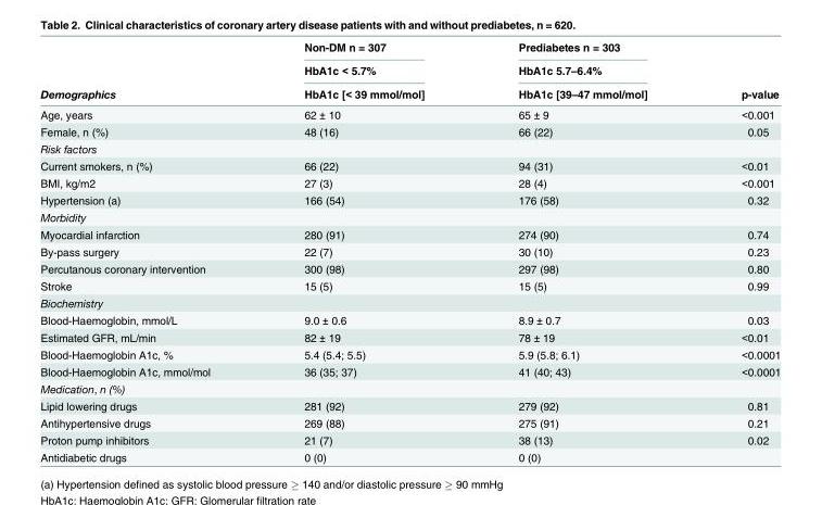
<table><thead><tr><td rowspan="3">Demographics</td><td rowspan="3">Non-DM n = 307 HbA1c &lt; 5.7% HbA1c [&lt; 39 mmol/mol]</td><td rowspan="3">Prediabetes n = 303 HbA1c 5.7–6.4% HbA1c [39–47 mmol/mol]</td><td rowspan="3">p-value</td></tr><tr></tr><tr></tr></thead><tbody><tr><td>Age, years</td><td>62 ± 10</td><td>65 ± 9</td><td>&lt;0.001</td></tr><tr><td>Female, n (%)</td><td>48 (16)</td><td>66 (22)</td><td>0.05</td></tr><tr><td colspan="4">Risk factors</td></tr><tr><td>Current smokers, n (%)</td><td>66 (22)</td><td>94 (31)</td><td>&lt;0.01</td></tr><tr><td>BMI, kg/m2</td><td>27 (3)</td><td>28 (4)</td><td>&lt;0.001</td></tr><tr><td>Hypertension (a)</td><td>166 (54)</td><td>176 (58)</td><td>0.32</td></tr><tr><td colspan="4">Morbidity</td></tr><tr><td>Myocardial infarction</td><td>280 (91)</td><td>274 (90)</td><td>0.74</td></tr><tr><td>By-pass surgery</td><td>22 (7)</td><td>30 (10)</td><td>0.23</td></tr><tr><td>Percutanous coronary intervention</td><td>300 (98)</td><td>297 (98)</td><td>0.80</td></tr><tr><td>Stroke</td><td>15 (5)</td><td>15 (5)</td><td>0.99</td></tr><tr><td colspan="4">Biochemistry</td></tr><tr><td>Blood-Haemoglobin, mmol/L</td><td>9.0 ± 0.6</td><td>8.9 ± 0.7</td><td>0.03</td></tr><tr><td>Estimated GFR, mL/min</td><td>82 ± 19</td><td>78 ± 19</td><td>&lt;0.01</td></tr><tr><td>Blood-Haemoglobin A1c, %</td><td>5.4 (5.4; 5.5)</td><td>5.9 (5.8; 6.1)</td><td>&lt;0.0001</td></tr><tr><td>Blood-Haemoglobin A1c, mmol/mol</td><td>36 (35; 37)</td><td>41 (40; 43)</td><td>&lt;0.0001</td></tr><tr><td colspan="4">Medication, n (%)</td></tr><tr><td>Lipid lowering drugs</td><td>281 (92)</td><td>279 (92)</td><td>0.81</td></tr><tr><td>Antihypertensive drugs</td><td>269 (88)</td><td>275 (91)</td><td>0.21</td></tr><tr><td>Proton pump inhibitors</td><td>21 (7)</td><td>38 (13)</td><td>0.02</td></tr><tr><td>Antidiabetic drugs</td><td>0 (0)</td><td>0 (0)</td><td></td></tr></tbody></table>